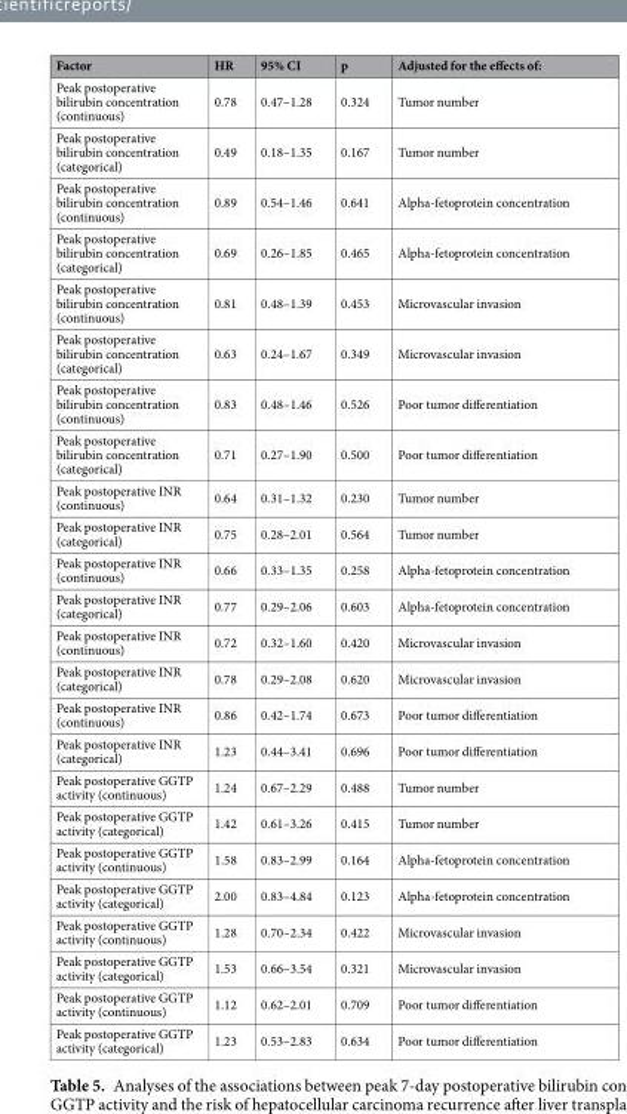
<table><thead><tr><td>Factor</td><td>HR</td><td>95% CI</td><td>p</td><td>Adjusted for the effects of:</td></tr></thead><tbody><tr><td>Peak postoperative bilirubin concentration (continuous)</td><td>0.78</td><td>0.47–1.28</td><td>0.324</td><td>Tumor number</td></tr><tr><td>Peak postoperative bilirubin concentration (categorical)</td><td>0.49</td><td>0.18–1.35</td><td>0.167</td><td>Tumor number</td></tr><tr><td>Peak postoperative bilirubin concentration (continuous)</td><td>0.89</td><td>0.54–1.46</td><td>0.641</td><td>Alpha-fetoprotein concentration</td></tr><tr><td>Peak postoperative bilirubin concentration (categorical)</td><td>0.69</td><td>0.26–1.85</td><td>0.465</td><td>Alpha-fetoprotein concentration</td></tr><tr><td>Peak postoperative bilirubin concentration (continuous)</td><td>0.81</td><td>0.48–1.39</td><td>0.453</td><td>Microvascular invasion</td></tr><tr><td>Peak postoperative bilirubin concentration (categorical)</td><td>0.63</td><td>0.24–1.67</td><td>0.349</td><td>Microvascular invasion</td></tr><tr><td>Peak postoperative bilirubin concentration (continuous)</td><td>0.83</td><td>0.48–1.46</td><td>0.526</td><td>Poor tumor differentiation</td></tr><tr><td>Peak postoperative bilirubin concentration (categorical)</td><td>0.71</td><td>0.27–1.90</td><td>0.500</td><td>Poor tumor differentiation</td></tr><tr><td>Peak postoperative INR (continuous)</td><td>0.64</td><td>0.31–1.32</td><td>0.230</td><td>Tumor number</td></tr><tr><td>Peak postoperative INR (categorical)</td><td>0.75</td><td>0.28–2.01</td><td>0.564</td><td>Tumor number</td></tr><tr><td>Peak postoperative INR (continuous)</td><td>0.66</td><td>0.33–1.35</td><td>0.258</td><td>Alpha-fetoprotein concentration</td></tr><tr><td>Peak postoperative INR (categorical)</td><td>0.77</td><td>0.29–2.06</td><td>0.603</td><td>Alpha-fetoprotein concentration</td></tr><tr><td>Peak postoperative INR (continuous)</td><td>0.72</td><td>0.32–1.60</td><td>0.420</td><td>Microvascular invasion</td></tr><tr><td>Peak postoperative INR (categorical)</td><td>0.78</td><td>0.29–2.08</td><td>0.620</td><td>Microvascular invasion</td></tr><tr><td>Peak postoperative INR (continuous)</td><td>0.86</td><td>0.42–1.74</td><td>0.673</td><td>Poor tumor differentiation</td></tr><tr><td>Peak postoperative INR (categorical)</td><td>1.23</td><td>0.44–3.41</td><td>0.696</td><td>Poor tumor differentiation</td></tr><tr><td>Peak postoperative GGTP activity (continuous)</td><td>1.24</td><td>0.67–2.29</td><td>0.488</td><td>Tumor number</td></tr><tr><td>Peak postoperative GGTP activity (categorical)</td><td>1.42</td><td>0.61–3.26</td><td>0.415</td><td>Tumor number</td></tr><tr><td>Peak postoperative GGTP activity (continuous)</td><td>1.58</td><td>0.83–2.99</td><td>0.164</td><td>Alpha-fetoprotein concentration</td></tr><tr><td>Peak postoperative GGTP activity (categorical)</td><td>2.00</td><td>0.83–4.84</td><td>0.123</td><td>Alpha-fetoprotein concentration</td></tr><tr><td>Peak postoperative GGTP activity (continuous)</td><td>1.28</td><td>0.70–2.34</td><td>0.422</td><td>Microvascular invasion</td></tr><tr><td>Peak postoperative GGTP activity (categorical)</td><td>1.53</td><td>0.66–3.54</td><td>0.321</td><td>Microvascular invasion</td></tr><tr><td>Peak postoperative GGTP activity (continuous)</td><td>1.12</td><td>0.62–2.01</td><td>0.709</td><td>Poor tumor differentiation</td></tr><tr><td>Peak postoperative GGTP activity (categorical)</td><td>1.23</td><td>0.53–2.83</td><td>0.634</td><td>Poor tumor differentiation</td></tr></tbody></table>